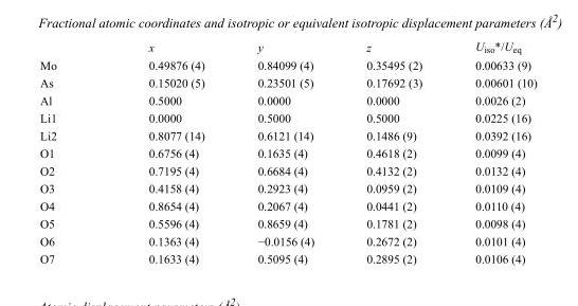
<table><thead><tr><td></td><td>x</td><td>y</td><td>z</td><td>U<sub>iso</sub>*/U<sub>eq</sub></td></tr></thead><tbody><tr><td>Mo</td><td>0.49876 (4)</td><td>0.84099 (4)</td><td>0.35495 (2)</td><td>0.00633 (9)</td></tr><tr><td>As</td><td>0.15020 (5)</td><td>0.23501 (5)</td><td>0.17692 (3)</td><td>0.00601 (10)</td></tr><tr><td>Al</td><td>0.5000</td><td>0.0000</td><td>0.0000</td><td>0.0026 (2)</td></tr><tr><td>Li1</td><td>0.0000</td><td>0.5000</td><td>0.5000</td><td>0.0225 (16)</td></tr><tr><td>Li2</td><td>0.8077 (14)</td><td>0.6121 (14)</td><td>0.1486 (9)</td><td>0.0392 (16)</td></tr><tr><td>O1</td><td>0.6756 (4)</td><td>0.1635 (4)</td><td>0.4618 (2)</td><td>0.0099 (4)</td></tr><tr><td>O2</td><td>0.7195 (4)</td><td>0.6684 (4)</td><td>0.4132 (2)</td><td>0.0132 (4)</td></tr><tr><td>O3</td><td>0.4158 (4)</td><td>0.2923 (4)</td><td>0.0959 (2)</td><td>0.0109 (4)</td></tr><tr><td>O4</td><td>0.8654 (4)</td><td>0.2067 (4)</td><td>0.0441 (2)</td><td>0.0110 (4)</td></tr><tr><td>O5</td><td>0.5596 (4)</td><td>0.8659 (4)</td><td>0.1781 (2)</td><td>0.0098 (4)</td></tr><tr><td>O6</td><td>0.1363 (4)</td><td>−0.0156 (4)</td><td>0.2672 (2)</td><td>0.0101 (4)</td></tr><tr><td>O7</td><td>0.1633 (4)</td><td>0.5095 (4)</td><td>0.2895 (2)</td><td>0.0106 (4)</td></tr></tbody></table>